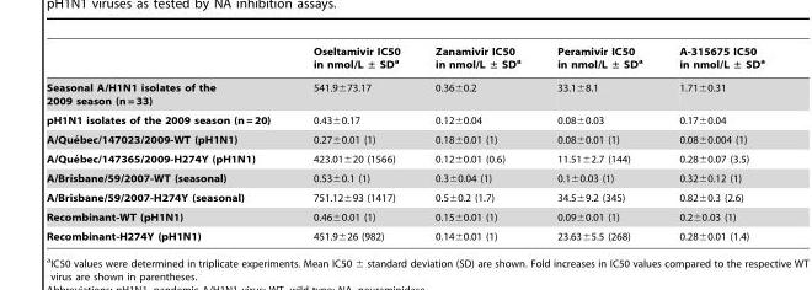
<table><thead><tr><td></td><td>Oseltamivir IC50 in nmol/L ± SD<sup>a</sup></td><td>Zanamivir IC50 in nmol/L ± SD<sup>a</sup></td><td>Peramivir IC50 in nmol/L ± SD<sup>a</sup></td><td>A-315675 IC50 in nmol/L ± SD<sup>a</sup></td></tr></thead><tbody><tr><td>Seasonal A/H1N1 isolates of the 2009 season (n = 33)</td><td>541.9±73.17</td><td>0.36±0.2</td><td>33.1±8.1</td><td>1.71±0.31</td></tr><tr><td>pH1N1 isolates of the 2009 season (n = 20)</td><td>0.43±0.17</td><td>0.12±0.04</td><td>0.08±0.03</td><td>0.17±0.04</td></tr><tr><td>A/Que´bec/147023/2009-WT (pH1N1)</td><td>0.27±0.01 (1)</td><td>0.18±0.01 (1)</td><td>0.08±0.01 (1)</td><td>0.08±0.004 (1)</td></tr><tr><td>A/Que´bec/147365/2009-H274Y (pH1N1)</td><td>423.01±20 (1566)</td><td>0.12±0.01 (0.6)</td><td>11.51±2.7 (144)</td><td>0.28±0.07 (3.5)</td></tr><tr><td>A/Brisbane/59/2007-WT (seasonal)</td><td>0.53±0.1 (1)</td><td>0.3±0.04 (1)</td><td>0.1±0.03 (1)</td><td>0.32±0.12 (1)</td></tr><tr><td>A/Brisbane/59/2007-H274Y (seasonal)</td><td>751.12±93 (1417)</td><td>0.5±0.2 (1.7)</td><td>34.5±9.2 (345)</td><td>0.82±0.3 (2.6)</td></tr><tr><td>Recombinant-WT (pH1N1)</td><td>0.46±0.01 (1)</td><td>0.15±0.01 (1)</td><td>0.09±0.01 (1)</td><td>0.2±0.03 (1)</td></tr><tr><td>Recombinant-H274Y (pH1N1)</td><td>451.9±26 (982)</td><td>0.14±0.01 (1)</td><td>23.63±5.5 (268)</td><td>0.28±0.01 (1.4)</td></tr></tbody></table>